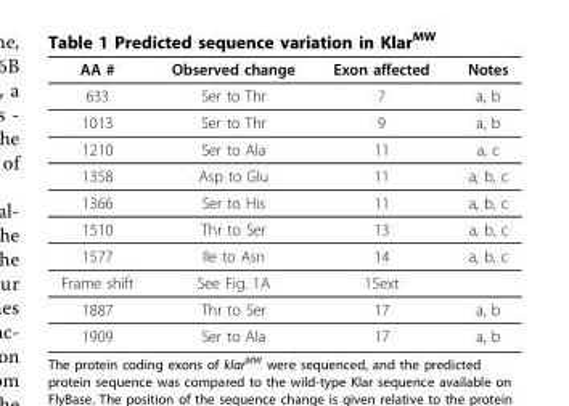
<table><thead><tr><td>AA #</td><td>Observed change</td><td>Exon affected</td><td>Notes</td></tr></thead><tbody><tr><td>633</td><td>Ser to Thr</td><td>7</td><td>a, b</td></tr><tr><td>1013</td><td>Ser to Thr</td><td>9</td><td>a, b</td></tr><tr><td>1210</td><td>Ser to Ala</td><td>11</td><td>a, c</td></tr><tr><td>1358</td><td>Asp to Glu</td><td>11</td><td>a, b, c</td></tr><tr><td>1366</td><td>Ser to His</td><td>11</td><td>a, b, c</td></tr><tr><td>1510</td><td>Thr to Ser</td><td>13</td><td>a, b, c</td></tr><tr><td>1577</td><td>Ile to Asn</td><td>14</td><td>a, b, c</td></tr><tr><td>Frame shift</td><td>See Fig. 1A</td><td>15ext</td><td></td></tr><tr><td>1887</td><td>Thr to Ser</td><td>17</td><td>a, b</td></tr><tr><td>1909</td><td>Ser to Ala</td><td>17</td><td>a, b</td></tr></tbody></table>